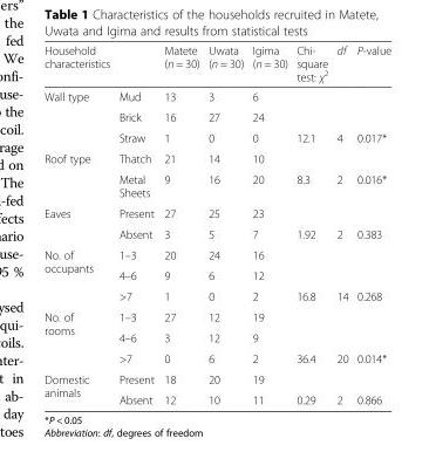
<table><thead><tr><td>Household characteristics</td><td></td><td>Matete (n = 30)</td><td>Uwata (n = 30)</td><td>Igima (n = 30)</td><td>Chi- square test: χ<sup>2</sup></td><td>df</td><td>P-value</td></tr></thead><tbody><tr><td rowspan="3">Wall type</td><td>Mud</td><td>13</td><td>3</td><td>6</td><td></td><td></td><td></td></tr><tr><td>Brick</td><td>16</td><td>27</td><td>24</td><td></td><td></td><td></td></tr><tr><td>Straw</td><td>1</td><td>0</td><td>0</td><td>12.1</td><td>4</td><td>0.017*</td></tr><tr><td rowspan="2">Roof type</td><td>Thatch</td><td>21</td><td>14</td><td>10</td><td></td><td></td><td></td></tr><tr><td>Metal Sheets</td><td>9</td><td>16</td><td>20</td><td>8.3</td><td>2</td><td>0.016*</td></tr><tr><td rowspan="2">Eaves</td><td>Present</td><td>27</td><td>25</td><td>23</td><td></td><td></td><td></td></tr><tr><td>Absent</td><td>3</td><td>5</td><td>7</td><td>1.92</td><td>2</td><td>0.383</td></tr><tr><td rowspan="3">No. of occupants</td><td>1–3</td><td>20</td><td>24</td><td>16</td><td></td><td></td><td></td></tr><tr><td>4–6</td><td>9</td><td>6</td><td>12</td><td></td><td></td><td></td></tr><tr><td>&gt;7</td><td>1</td><td>0</td><td>2</td><td>16.8</td><td>14</td><td>0.268</td></tr><tr><td rowspan="3">No. of rooms</td><td>1–3</td><td>27</td><td>12</td><td>19</td><td></td><td></td><td></td></tr><tr><td>4–6</td><td>3</td><td>12</td><td>9</td><td></td><td></td><td></td></tr><tr><td>&gt;7</td><td>0</td><td>6</td><td>2</td><td>36.4</td><td>20</td><td>0.014*</td></tr><tr><td rowspan="2">Domestic animals</td><td>Present</td><td>18</td><td>20</td><td>19</td><td></td><td></td><td></td></tr><tr><td>Absent</td><td>12</td><td>10</td><td>11</td><td>0.29</td><td>2</td><td>0.866</td></tr></tbody></table>